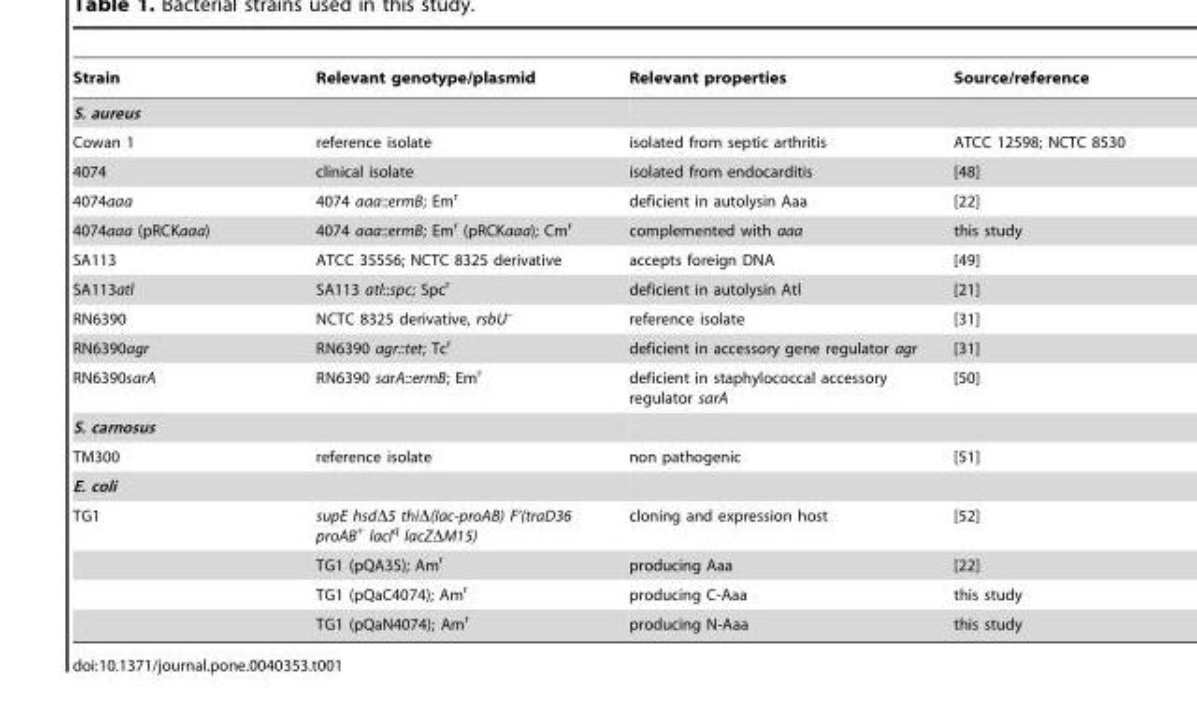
<table><thead><tr><td>Strain</td><td>Relevant genotype/plasmid</td><td>Relevant properties</td><td>Source/reference</td></tr></thead><tbody><tr><td colspan="4">S. aureus</td></tr><tr><td>Cowan 1</td><td>reference isolate</td><td>isolated from septic arthritis</td><td>ATCC 12598; NCTC 8530</td></tr><tr><td>4074</td><td>clinical isolate</td><td>isolated from endocarditis</td><td>[48]</td></tr><tr><td>4074aaa</td><td>4074 aaa::ermB; Em<sup>r</sup></td><td>deficient in autolysin Aaa</td><td>[22]</td></tr><tr><td>4074aaa (pRCKaaa)</td><td>4074 aaa::ermB; Em<sup>r</sup> (pRCKaaa); Cm<sup>r</sup></td><td>complemented with aaa</td><td>this study</td></tr><tr><td>SA113</td><td>ATCC 35556; NCTC 8325 derivative</td><td>accepts foreign DNA</td><td>[49]</td></tr><tr><td>SA113atl</td><td>SA113 atl::spc; Spc<sup>r</sup></td><td>deficient in autolysin Atl</td><td>[21]</td></tr><tr><td>RN6390</td><td>NCTC 8325 derivative, rsbU<sup>–</sup></td><td>reference isolate</td><td>[31]</td></tr><tr><td>RN6390agr</td><td>RN6390 agr::tet; Tc<sup>r</sup></td><td>deficient in accessory gene regulator agr</td><td>[31]</td></tr><tr><td>RN6390sarA</td><td>RN6390 sarA::ermB; Em<sup>r</sup></td><td>deficient in staphylococcal accessory regulator sarA</td><td>[50]</td></tr><tr><td colspan="4">S. carnosus</td></tr><tr><td>TM300</td><td>reference isolate</td><td>non pathogenic</td><td>[51]</td></tr><tr><td colspan="4">E. coli</td></tr><tr><td rowspan="4">TG1</td><td>supE hsdΔ5 thiΔ(lac-proAB) F’(traD36 proAB<sup>+</sup> lacI<sup>q</sup> lacZΔM15)</td><td>cloning and expression host</td><td>[52]</td></tr><tr><td>TG1 (pQA35); Am<sup>r</sup></td><td>producing Aaa</td><td>[22]</td></tr><tr><td>TG1 (pQaC4074); Am<sup>r</sup></td><td>producing C-Aaa</td><td>this study</td></tr><tr><td>TG1 (pQaN4074); Am<sup>r</sup></td><td>producing N-Aaa</td><td>this study</td></tr></tbody></table>